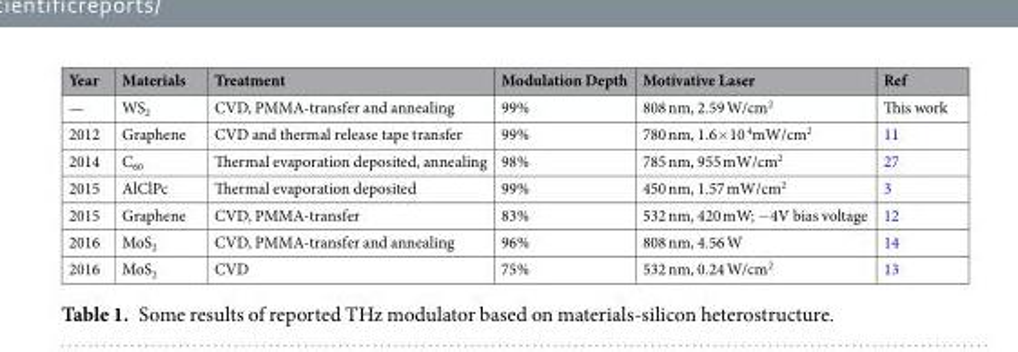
<table><thead><tr><td>Year</td><td>Materials</td><td>Treatment</td><td>Modulation Depth</td><td>Motivative Laser</td><td>Ref</td></tr></thead><tbody><tr><td>—</td><td>WS<sub>2</sub></td><td>CVD, PMMA-transfer and annealing</td><td>99%</td><td>808 nm, 2.59 W/cm<sup>2</sup></td><td>This work</td></tr><tr><td>2012</td><td>Graphene</td><td>CVD and thermal release tape transfer</td><td>99%</td><td>780 nm, 1.6×10 <sup>4</sup>mW/cm<sup>2</sup></td><td>11</td></tr><tr><td>2014</td><td>C<sub>60</sub></td><td>Thermal evaporation deposited, annealing</td><td>98%</td><td>785 nm, 955 mW/cm<sup>2</sup></td><td>27</td></tr><tr><td>2015</td><td>AlClPc</td><td>Thermal evaporation deposited</td><td>99%</td><td>450 nm, 1.57 mW/cm<sup>2</sup></td><td>3</td></tr><tr><td>2015</td><td>Graphene</td><td>CVD, PMMA-transfer</td><td>83%</td><td>532 nm, 420 mW; −4V bias voltage</td><td>12</td></tr><tr><td>2016</td><td>MoS<sub>2</sub></td><td>CVD, PMMA-transfer and annealing</td><td>96%</td><td>808 nm, 4.56 W</td><td>14</td></tr><tr><td>2016</td><td>MoS<sub>2</sub></td><td>CVD</td><td>75%</td><td>532 nm, 0.24 W/cm<sup>2</sup></td><td>13</td></tr></tbody></table>